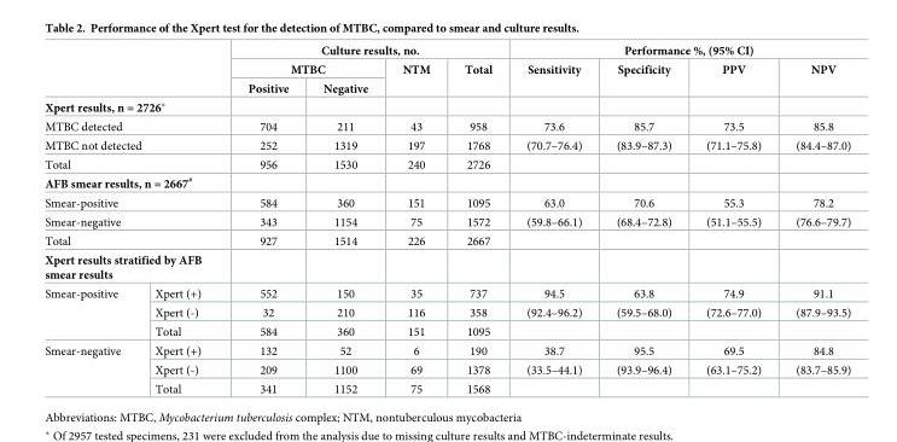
<table><thead><tr><td rowspan="3"></td><td rowspan="3"></td><td colspan="4">Culture results, no.</td><td colspan="4">Performance %, (95% CI)</td></tr><tr><td colspan="2">MTBC</td><td rowspan="2">NTM</td><td rowspan="2">Total</td><td rowspan="2">Sensitivity</td><td rowspan="2">Specificity</td><td rowspan="2">PPV</td><td rowspan="2">NPV</td></tr><tr><td>Positive</td><td>Negative</td></tr></thead><tbody><tr><td colspan="10">Xpert results, n = 2726*</td></tr><tr><td colspan="2">MTBC detected</td><td>704</td><td>211</td><td>43</td><td>958</td><td>73.6</td><td>85.7</td><td>73.5</td><td>85.8</td></tr><tr><td colspan="2">MTBC not detected</td><td>252</td><td>1319</td><td>197</td><td>1768</td><td>(70.7–76.4)</td><td>(83.9–87.3)</td><td>(71.1–75.8)</td><td>(84.4–87.0)</td></tr><tr><td colspan="2">Total</td><td>956</td><td>1530</td><td>240</td><td>2726</td><td></td><td></td><td></td><td></td></tr><tr><td colspan="10">AFB smear results, n = 2667<sup>#</sup></td></tr><tr><td colspan="2">Smear-positive</td><td>584</td><td>360</td><td>151</td><td>1095</td><td>63.0</td><td>70.6</td><td>55.3</td><td>78.2</td></tr><tr><td colspan="2">Smear-negative</td><td>343</td><td>1154</td><td>75</td><td>1572</td><td>(59.8–66.1)</td><td>(68.4–72.8)</td><td>(51.1–55.5)</td><td>(76.6–79.7)</td></tr><tr><td colspan="2">Total</td><td>927</td><td>1514</td><td>226</td><td>2667</td><td></td><td></td><td></td><td></td></tr><tr><td colspan="10">Xpert results stratified by AFB smear results</td></tr><tr><td rowspan="3">Smear-positive</td><td>Xpert (+)</td><td>552</td><td>150</td><td>35</td><td>737</td><td>94.5</td><td>63.8</td><td>74.9</td><td>91.1</td></tr><tr><td>Xpert (-)</td><td>32</td><td>210</td><td>116</td><td>358</td><td>(92.4–96.2)</td><td>(59.5–68.0)</td><td>(72.6–77.0)</td><td>(87.9–93.5)</td></tr><tr><td>Total</td><td>584</td><td>360</td><td>151</td><td>1095</td><td></td><td></td><td></td><td></td></tr><tr><td rowspan="3">Smear-negative</td><td>Xpert (+)</td><td>132</td><td>52</td><td>6</td><td>190</td><td>38.7</td><td>95.5</td><td>69.5</td><td>84.8</td></tr><tr><td>Xpert (-)</td><td>209</td><td>1100</td><td>69</td><td>1378</td><td>(33.5–44.1)</td><td>(93.9–96.4)</td><td>(63.1–75.2)</td><td>(83.7–85.9)</td></tr><tr><td>Total</td><td>341</td><td>1152</td><td>75</td><td>1568</td><td></td><td></td><td></td><td></td></tr></tbody></table>